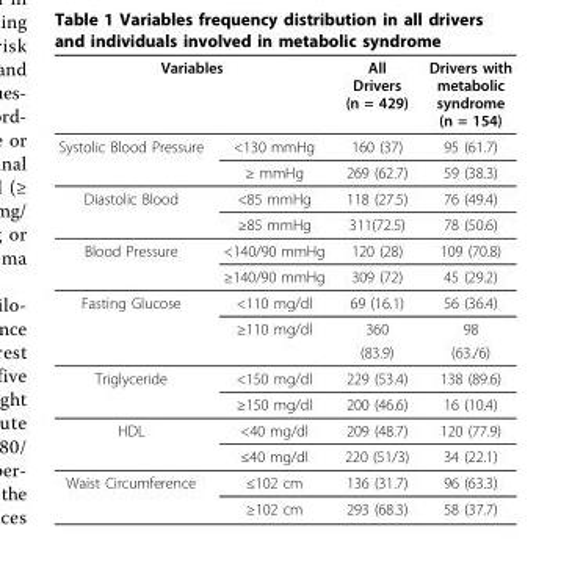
<table><thead><tr><td colspan="2">Variables</td><td rowspan="2">All Drivers (n = 429) 160 (37)</td><td rowspan="2">Drivers with metabolic syndrome (n = 154) 95 (61.7)</td></tr><tr><td>Systolic Blood Pressure</td><td>&lt;130 mmHg</td></tr></thead><tbody><tr><td></td><td>≥ mmHg</td><td>269 (62.7)</td><td>59 (38.3)</td></tr><tr><td rowspan="2">Diastolic Blood</td><td>&lt;85 mmHg</td><td>118 (27.5)</td><td>76 (49.4)</td></tr><tr><td>≥85 mmHg</td><td>311(72.5)</td><td>78 (50.6)</td></tr><tr><td rowspan="2">Blood Pressure</td><td>&lt;140/90 mmHg</td><td>120 (28)</td><td>109 (70.8)</td></tr><tr><td>≥140/90 mmHg</td><td>309 (72)</td><td>45 (29.2)</td></tr><tr><td rowspan="3">Fasting Glucose</td><td>&lt;110 mg/dl</td><td>69 (16.1)</td><td>56 (36.4)</td></tr><tr><td>≥110 mg/dl</td><td>360</td><td>98</td></tr><tr><td></td><td>(83.9)</td><td>(63./6)</td></tr><tr><td rowspan="2">Triglyceride</td><td>&lt;150 mg/dl</td><td>229 (53.4)</td><td>138 (89.6)</td></tr><tr><td>≥150 mg/dl</td><td>200 (46.6)</td><td>16 (10.4)</td></tr><tr><td rowspan="2">HDL</td><td>&lt;40 mg/dl</td><td>209 (48.7)</td><td>120 (77.9)</td></tr><tr><td>≤40 mg/dl</td><td>220 (51/3)</td><td>34 (22.1)</td></tr><tr><td rowspan="2">Waist Circumference</td><td>≤102 cm</td><td>136 (31.7)</td><td>96 (63.3)</td></tr><tr><td>≥102 cm</td><td>293 (68.3)</td><td>58 (37.7)</td></tr></tbody></table>